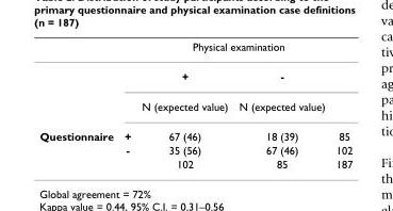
<table><thead><tr><td rowspan="2"></td><td colspan="4">Physical examination</td></tr><tr><td></td><td>+</td><td>-</td><td></td></tr></thead><tbody><tr><td></td><td></td><td>N (expected value)</td><td>N (expected value)</td><td></td></tr><tr><td rowspan="3">Questionnaire</td><td>+</td><td>67 (46)</td><td>18 (39)</td><td>85</td></tr><tr><td>-</td><td>35 (56)</td><td>67 (46)</td><td>102</td></tr><tr><td></td><td>102</td><td>85</td><td>187</td></tr></tbody></table>